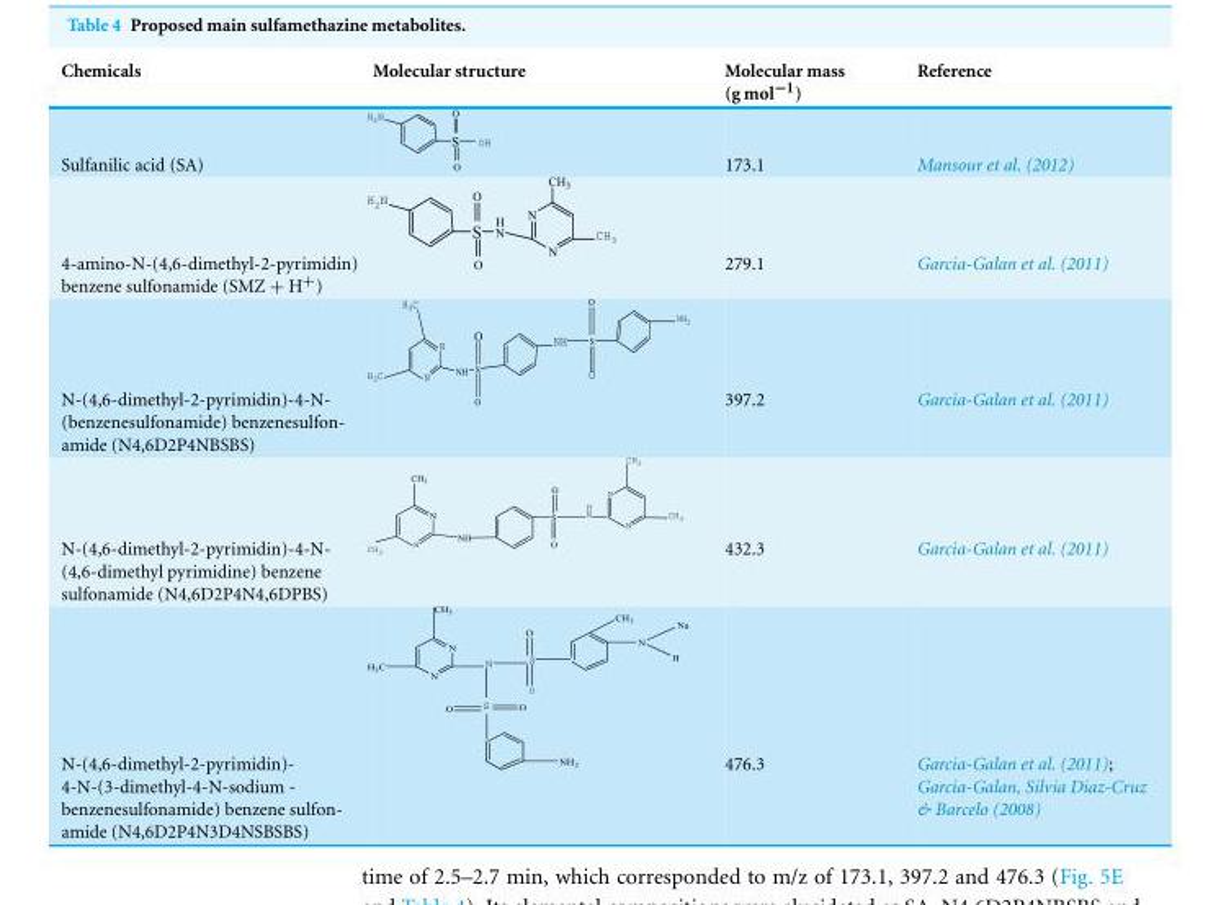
<table><thead><tr><td>Chemicals</td><td>Molecular structure</td><td>Molecular mass (g mol<sup>−1</sup>)</td><td>Reference</td></tr></thead><tbody><tr><td>Sulfanilic acid (SA)</td><td></td><td>173.1</td><td>Mansour et al. (2012)</td></tr><tr><td>4-amino-N-(4,6-dimethyl-2-pyrimidin) benzene sulfonamide (SMZ + H<sup>+</sup>)</td><td></td><td>279.1</td><td>Garcia-Galan et al. (2011)</td></tr><tr><td>N-(4,6-dimethyl-2-pyrimidin)-4-N- (benzenesulfonamide) benzenesulfon- amide (N4,6D2P4NBSBS)</td><td></td><td>397.2</td><td>Garcia-Galan et al. (2011)</td></tr><tr><td>N-(4,6-dimethyl-2-pyrimidin)-4-N- (4,6-dimethyl pyrimidine) benzene sulfonamide (N4,6D2P4N4,6DPBS)</td><td></td><td>432.3</td><td>Garcia-Galan et al. (2011)</td></tr><tr><td>N-(4,6-dimethyl-2-pyrimidin)- 4-N-(3-dimethyl-4-N-sodium - benzenesulfonamide) benzene sulfon- amide (N4,6D2P4N3D4NSBSBS)</td><td></td><td>476.3</td><td>Garcia-Galan et al. (2011); Garcia-Galan, Silvia Diaz-Cruz &amp; Barcelo (2008)</td></tr></tbody></table>